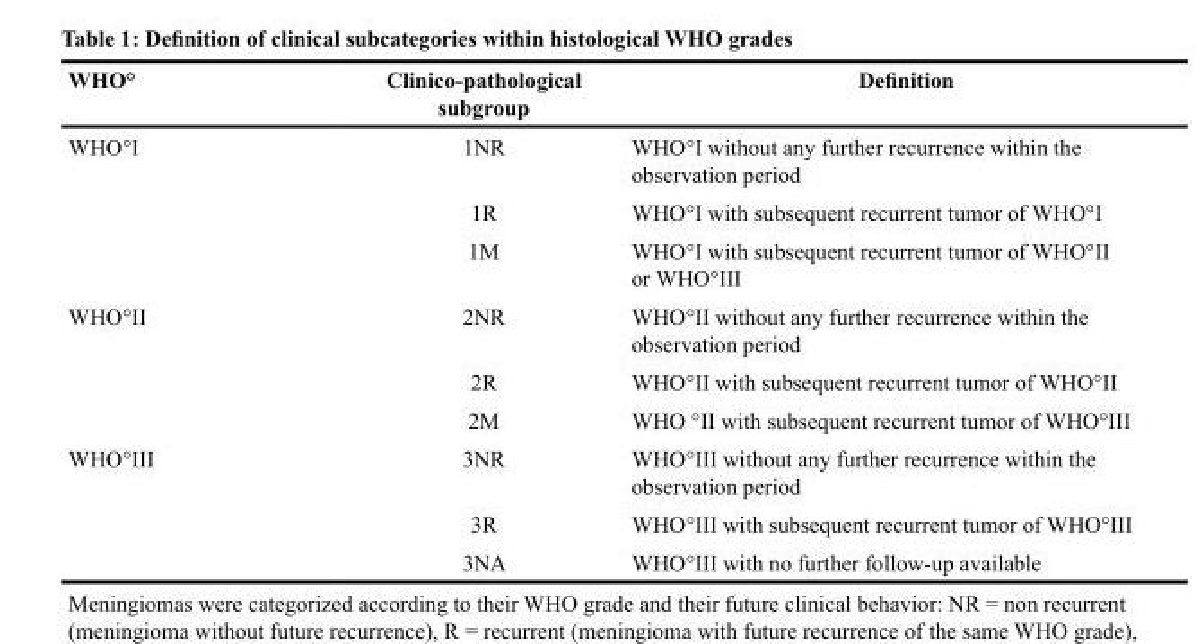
<table><thead><tr><td>WHO°</td><td>Clinico-pathological subgroup</td><td>Definition</td></tr></thead><tbody><tr><td rowspan="3">WHO°I</td><td>1NR</td><td>WHO°I without any further recurrence within the observation period</td></tr><tr><td>1R</td><td>WHO°I with subsequent recurrent tumor of WHO°I</td></tr><tr><td>1M</td><td>WHO°I with subsequent recurrent tumor of WHO°II or WHO°III</td></tr><tr><td rowspan="3">WHO°II</td><td>2NR</td><td>WHO°II without any further recurrence within the observation period</td></tr><tr><td>2R</td><td>WHO°II with subsequent recurrent tumor of WHO°II</td></tr><tr><td>2M</td><td>WHO °II with subsequent recurrent tumor of WHO°III</td></tr><tr><td rowspan="3">WHO°III</td><td>3NR</td><td>WHO°III without any further recurrence within the observation period</td></tr><tr><td>3R</td><td>WHO°III with subsequent recurrent tumor of WHO°III</td></tr><tr><td>3NA</td><td>WHO°III with no further follow-up available</td></tr></tbody></table>